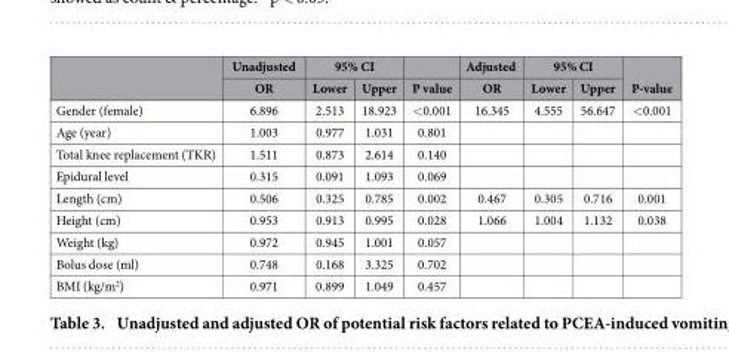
<table><thead><tr><td rowspan="2"></td><td rowspan="2">Unadjusted OR</td><td colspan="2">95% CI</td><td rowspan="2">P value</td><td rowspan="2">Adjusted OR</td><td colspan="2">95% CI</td><td rowspan="2">P-value</td></tr><tr><td>Lower</td><td>Upper</td><td>Lower</td><td>Upper</td></tr></thead><tbody><tr><td>Gender (female)</td><td>6.896</td><td>2.513</td><td>18.923</td><td>&lt; 0.001</td><td>16.345</td><td>4.555</td><td>56.647</td><td>&lt; 0.001</td></tr><tr><td>Age (year)</td><td>1.003</td><td>0.977</td><td>1.031</td><td>0.801</td><td></td><td></td><td></td><td></td></tr><tr><td>Total knee replacement (TKR)</td><td>1.511</td><td>0.873</td><td>2.614</td><td>0.140</td><td></td><td></td><td></td><td></td></tr><tr><td>Epidural level</td><td>0.315</td><td>0.091</td><td>1.093</td><td>0.069</td><td></td><td></td><td></td><td></td></tr><tr><td>Length (cm)</td><td>0.506</td><td>0.325</td><td>0.785</td><td>0.002</td><td>0.467</td><td>0.305</td><td>0.716</td><td>0.001</td></tr><tr><td>Height (cm)</td><td>0.953</td><td>0.913</td><td>0.995</td><td>0.028</td><td>1.066</td><td>1.004</td><td>1.132</td><td>0.038</td></tr><tr><td>Weight (kg)</td><td>0.972</td><td>0.945</td><td>1.001</td><td>0.057</td><td></td><td></td><td></td><td></td></tr><tr><td>Bolus dose (ml)</td><td>0.748</td><td>0.168</td><td>3.325</td><td>0.702</td><td></td><td></td><td></td><td></td></tr><tr><td>BMI (kg/m<sup>2</sup>)</td><td>0.971</td><td>0.899</td><td>1.049</td><td>0.457</td><td></td><td></td><td></td><td></td></tr></tbody></table>